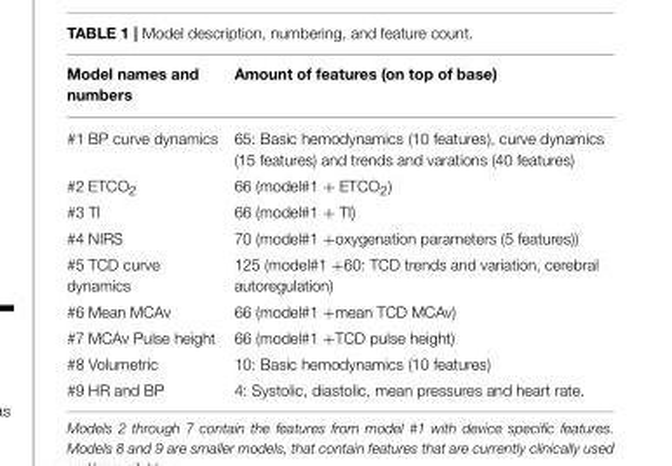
<table><thead><tr><td>Model names and numbers</td><td>Amount of features (on top of base)</td></tr></thead><tbody><tr><td>#1 BP curve dynamics</td><td>65: Basic hemodynamics (10 features), curve dynamics (15 features) and trends and varations (40 features)</td></tr><tr><td>#2 ETCO<sub>2</sub></td><td>66 (model#1 + ETCO<sub>2</sub>)</td></tr><tr><td>#3 TI</td><td>66 (model#1 + TI)</td></tr><tr><td>#4 NIRS</td><td>70 (model#1 +oxygenation parameters (5 features))</td></tr><tr><td>#5 TCD curve dynamics</td><td>125 (model#1 +60: TCD trends and variation, cerebral autoregulation)</td></tr><tr><td>#6 Mean MCAv</td><td>66 (model#1 +mean TCD MCAv)</td></tr><tr><td>#7 MCAv Pulse height</td><td>66 (model#1 +TCD pulse height)</td></tr><tr><td>#8 Volumetric</td><td>10: Basic hemodynamics (10 features)</td></tr><tr><td>#9 HR and BP</td><td>4: Systolic, diastolic, mean pressures and heart rate.</td></tr></tbody></table>